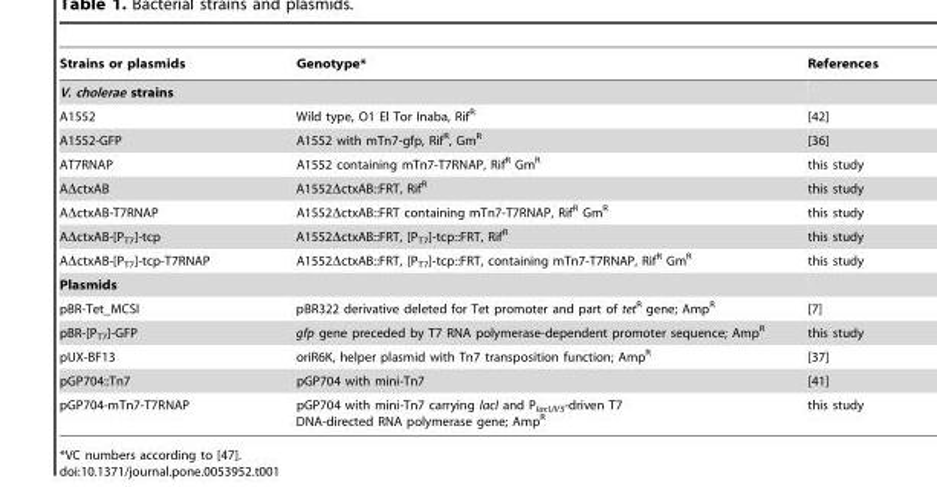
<table><thead><tr><td>Strains or plasmids</td><td>Genotype*</td><td>References</td></tr></thead><tbody><tr><td colspan="3">V. cholerae strains</td></tr><tr><td>A1552</td><td>Wild type, O1 El Tor Inaba, Rif<sup>R</sup></td><td>[42]</td></tr><tr><td>A1552-GFP</td><td>A1552 with mTn7-gfp, Rif<sup>R</sup>, Gm<sup>R</sup></td><td>[36]</td></tr><tr><td>AT7RNAP</td><td>A1552 containing mTn7-T7RNAP, Rif<sup>R</sup> Gm<sup>R</sup></td><td>this study</td></tr><tr><td>AΔctxAB</td><td>A1552ΔctxAB::FRT, Rif<sup>R</sup></td><td>this study</td></tr><tr><td>AΔctxAB-T7RNAP</td><td>A1552ΔctxAB::FRT containing mTn7-T7RNAP, Rif<sup>R</sup> Gm<sup>R</sup></td><td>this study</td></tr><tr><td>AΔctxAB-[P<sub>T7</sub>]-tcp</td><td>A1552ΔctxAB::FRT, [P<sub>T7</sub>]-tcp::FRT, Rif<sup>R</sup></td><td>this study</td></tr><tr><td>AΔctxAB-[P<sub>T7</sub>]-tcp-T7RNAP</td><td>A1552ΔctxAB::FRT, [P<sub>T7</sub>]-tcp::FRT, containing mTn7-T7RNAP, Rif<sup>R</sup> Gm<sup>R</sup></td><td>this study</td></tr><tr><td colspan="3">Plasmids</td></tr><tr><td>pBR-Tet_MCSI</td><td>pBR322 derivative deleted for Tet promoter and part of tet<sup>R</sup> gene; Amp<sup>R</sup></td><td>[7]</td></tr><tr><td>pBR-[P<sub>T7</sub>]-GFP</td><td>gfp gene preceded by T7 RNA polymerase-dependent promoter sequence; Amp<sup>R</sup></td><td>this study</td></tr><tr><td>pUX-BF13</td><td>oriR6K, helper plasmid with Tn7 transposition function; Amp<sup>R</sup></td><td>[37]</td></tr><tr><td>pGP704::Tn7</td><td>pGP704 with mini-Tn7</td><td>[41]</td></tr><tr><td>pGP704-mTn7-T7RNAP</td><td>pGP704 with mini-Tn7 carrying lacI and P<sub>lacUV5</sub>-driven T7 DNA-directed RNA polymerase gene; Amp<sup>R</sup></td><td>this study</td></tr></tbody></table>